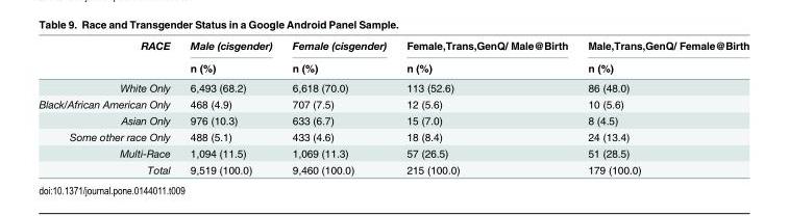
<table><thead><tr><td rowspan="2">RACE</td><td rowspan="2">Male (cisgender) n (%)</td><td rowspan="2">Female (cisgender) n (%)</td><td rowspan="2">Female,Trans,GenQ/ Male@Birth n (%)</td><td rowspan="2">Male,Trans,GenQ/ Female@Birth n (%)</td></tr><tr></tr></thead><tbody><tr><td>White Only</td><td>6,493 (68.2)</td><td>6,618 (70.0)</td><td>113 (52.6)</td><td>86 (48.0)</td></tr><tr><td>Black/African American Only</td><td>468 (4.9)</td><td>707 (7.5)</td><td>12 (5.6)</td><td>10 (5.6)</td></tr><tr><td>Asian Only</td><td>976 (10.3)</td><td>633 (6.7)</td><td>15 (7.0)</td><td>8 (4.5)</td></tr><tr><td>Some other race Only</td><td>488 (5.1)</td><td>433 (4.6)</td><td>18 (8.4)</td><td>24 (13.4)</td></tr><tr><td>Multi-Race</td><td>1,094 (11.5)</td><td>1,069 (11.3)</td><td>57 (26.5)</td><td>51 (28.5)</td></tr><tr><td>Total</td><td>9,519 (100.0)</td><td>9,460 (100.0)</td><td>215 (100.0)</td><td>179 (100.0)</td></tr></tbody></table>